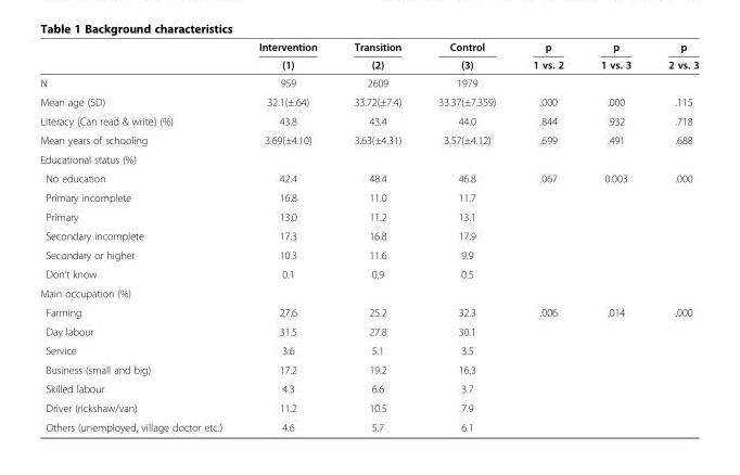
<table><thead><tr><td rowspan="2"></td><td rowspan="2">Intervention (1)</td><td rowspan="2">Transition (2)</td><td rowspan="2">Control (3)</td><td rowspan="2">p 1 vs. 2</td><td rowspan="2">p 1 vs. 3</td><td rowspan="2">p 2 vs. 3</td></tr><tr></tr></thead><tbody><tr><td>N</td><td>959</td><td>2609</td><td>1979</td><td></td><td></td><td></td></tr><tr><td>Mean age (SD)</td><td>32.1(±.64)</td><td>33.72(±7.4)</td><td>33.37(±7.359)</td><td>.000</td><td>.000</td><td>.115</td></tr><tr><td>Literacy (Can read &amp; write) (%)</td><td>43.8</td><td>43.4</td><td>44.0</td><td>.844</td><td>.932</td><td>.718</td></tr><tr><td>Mean years of schooling</td><td>3.69(±4.10)</td><td>3.63(±4.31)</td><td>3.57(±4.12)</td><td>.699</td><td>.491</td><td>.688</td></tr><tr><td colspan="7">Educational status (%)</td></tr><tr><td>No education</td><td>42.4</td><td>48.4</td><td>46.8</td><td>.067</td><td>0.003</td><td>.000</td></tr><tr><td>Primary incomplete</td><td>16.8</td><td>11.0</td><td>11.7</td><td></td><td></td><td></td></tr><tr><td>Primary</td><td>13.0</td><td>11.2</td><td>13.1</td><td></td><td></td><td></td></tr><tr><td>Secondary incomplete</td><td>17.3</td><td>16.8</td><td>17.9</td><td></td><td></td><td></td></tr><tr><td>Secondary or higher</td><td>10.3</td><td>11.6</td><td>9.9</td><td></td><td></td><td></td></tr><tr><td>Don’t know</td><td>0.1</td><td>0.9</td><td>0.5</td><td></td><td></td><td></td></tr><tr><td colspan="7">Main occupation (%)</td></tr><tr><td>Farming</td><td>27.6</td><td>25.2</td><td>32.3</td><td>.006</td><td>.014</td><td>.000</td></tr><tr><td>Day labour</td><td>31.5</td><td>27.8</td><td>30.1</td><td></td><td></td><td></td></tr><tr><td>Service</td><td>3.6</td><td>5.1</td><td>3.5</td><td></td><td></td><td></td></tr><tr><td>Business (small and big)</td><td>17.2</td><td>19.2</td><td>16.3</td><td></td><td></td><td></td></tr><tr><td>Skilled labour</td><td>4.3</td><td>6.6</td><td>3.7</td><td></td><td></td><td></td></tr><tr><td>Driver (rickshaw/van)</td><td>11.2</td><td>10.5</td><td>7.9</td><td></td><td></td><td></td></tr><tr><td>Others (unemployed, village doctor etc.)</td><td>4.6</td><td>5.7</td><td>6.1</td><td></td><td></td><td></td></tr></tbody></table>